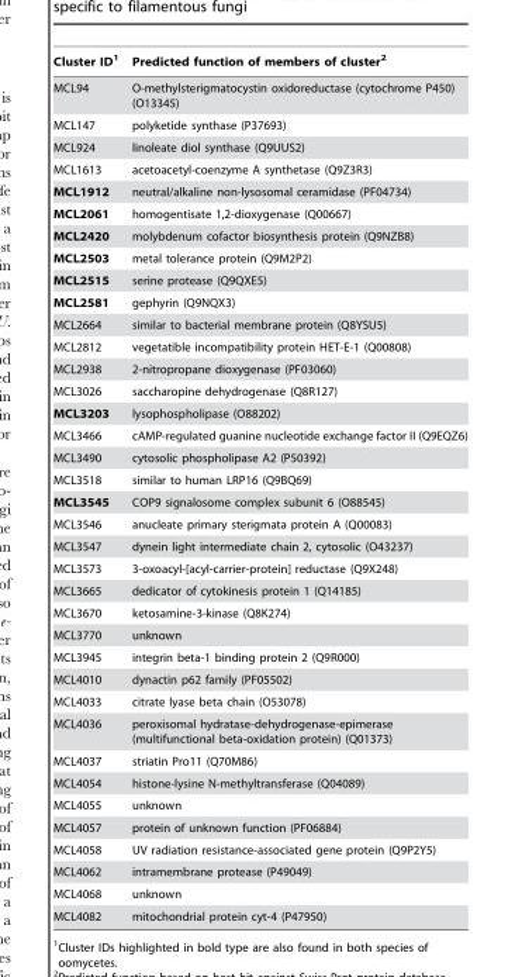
<table><thead><tr><td>Cluster ID<sup>1</sup></td><td>Predicted function of members of cluster<sup>2</sup></td></tr></thead><tbody><tr><td>MCL94</td><td>O-methylsterigmatocystin oxidoreductase (cytochrome P450) (O13345)</td></tr><tr><td>MCL147</td><td>polyketide synthase (P37693)</td></tr><tr><td>MCL924</td><td>linoleate diol synthase (Q9UUS2)</td></tr><tr><td>MCL1613</td><td>acetoacetyl-coenzyme A synthetase (Q9Z3R3)</td></tr><tr><td>MCL1912</td><td>neutral/alkaline non-lysosomal ceramidase (PF04734)</td></tr><tr><td>MCL2061</td><td>homogentisate 1,2-dioxygenase (Q00667)</td></tr><tr><td>MCL2420</td><td>molybdenum cofactor biosynthesis protein (Q9NZB8)</td></tr><tr><td>MCL2503</td><td>metal tolerance protein (Q9M2P2)</td></tr><tr><td>MCL2515</td><td>serine protease (Q9QXE5)</td></tr><tr><td>MCL2581</td><td>gephyrin (Q9NQX3)</td></tr><tr><td>MCL2664</td><td>similar to bacterial membrane protein (Q8YSU5)</td></tr><tr><td>MCL2812</td><td>vegetatible incompatibility protein HET-E-1 (Q00808)</td></tr><tr><td>MCL2938</td><td>2-nitropropane dioxygenase (PF03060)</td></tr><tr><td>MCL3026</td><td>saccharopine dehydrogenase (Q8R127)</td></tr><tr><td>MCL3203</td><td>lysophospholipase (O88202)</td></tr><tr><td>MCL3466</td><td>cAMP-regulated guanine nucleotide exchange factor II (Q9EQZ6)</td></tr><tr><td>MCL3490</td><td>cytosolic phospholipase A2 (P50392)</td></tr><tr><td>MCL3518</td><td>similar to human LRP16 (Q9BQ69)</td></tr><tr><td>MCL3545</td><td>COP9 signalosome complex subunit 6 (O88545)</td></tr><tr><td>MCL3546</td><td>anucleate primary sterigmata protein A (Q00083)</td></tr><tr><td>MCL3547</td><td>dynein light intermediate chain 2, cytosolic (O43237)</td></tr><tr><td>MCL3573</td><td>3-oxoacyl-[acyl-carrier-protein] reductase (Q9X248)</td></tr><tr><td>MCL3665</td><td>dedicator of cytokinesis protein 1 (Q14185)</td></tr><tr><td>MCL3670</td><td>ketosamine-3-kinase (Q8K274)</td></tr><tr><td>MCL3770</td><td>unknown</td></tr><tr><td>MCL3945</td><td>integrin beta-1 binding protein 2 (Q9R000)</td></tr><tr><td>MCL4010</td><td>dynactin p62 family (PF05502)</td></tr><tr><td>MCL4033</td><td>citrate lyase beta chain (O53078)</td></tr><tr><td>MCL4036</td><td>peroxisomal hydratase-dehydrogenase-epimerase (multifunctional beta-oxidation protein) (Q01373)</td></tr><tr><td>MCL4037</td><td>striatin Pro11 (Q70M86)</td></tr><tr><td>MCL4054</td><td>histone-lysine N-methyltransferase (Q04089)</td></tr><tr><td>MCL4055</td><td>unknown</td></tr><tr><td>MCL4057</td><td>protein of unknown function (PF06884)</td></tr><tr><td>MCL4058</td><td>UV radiation resistance-associated gene protein (Q9P2Y5)</td></tr><tr><td>MCL4062</td><td>intramembrane protease (P49049)</td></tr><tr><td>MCL4068</td><td>unknown</td></tr><tr><td>MCL4082</td><td>mitochondrial protein cyt-4 (P47950)</td></tr></tbody></table>